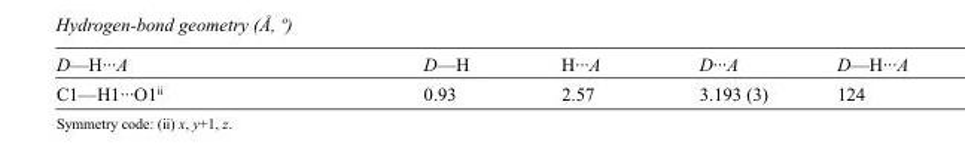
<table><tbody><tr><td>D—H···A</td><td>D—H</td><td>H···A</td><td>D···A</td><td>D—H···A</td></tr><tr><td>C1—H1···O1<sup>ii</sup></td><td>0.93</td><td>2.57</td><td>3.193 (3)</td><td>124</td></tr></tbody></table>